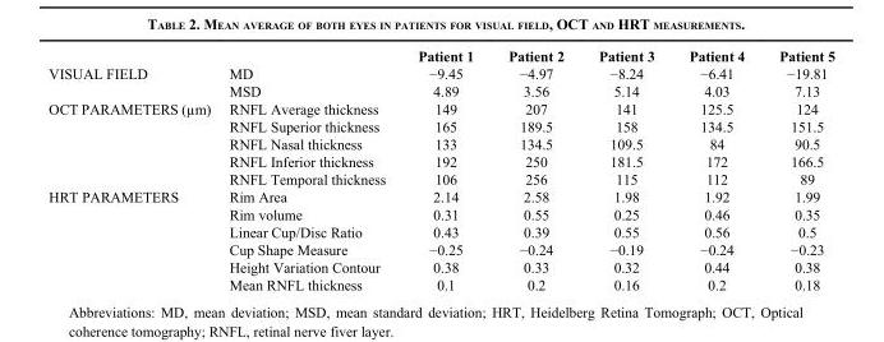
<table><thead><tr><td></td><td></td><td>Patient 1</td><td>Patient 2</td><td>Patient 3</td><td>Patient 4</td><td>Patient 5</td></tr></thead><tbody><tr><td rowspan="2">VISUAL FIELD</td><td>MD</td><td>−9.45</td><td>−4.97</td><td>−8.24</td><td>−6.41</td><td>−19.81</td></tr><tr><td>MSD</td><td>4.89</td><td>3.56</td><td>5.14</td><td>4.03</td><td>7.13</td></tr><tr><td rowspan="5">OCT PARAMETERS (µm)</td><td>RNFL Average thickness</td><td>149</td><td>207</td><td>141</td><td>125.5</td><td>124</td></tr><tr><td>RNFL Superior thickness</td><td>165</td><td>189.5</td><td>158</td><td>134.5</td><td>151.5</td></tr><tr><td>RNFL Nasal thickness</td><td>133</td><td>134.5</td><td>109.5</td><td>84</td><td>90.5</td></tr><tr><td>RNFL Inferior thickness</td><td>192</td><td>250</td><td>181.5</td><td>172</td><td>166.5</td></tr><tr><td>RNFL Temporal thickness</td><td>106</td><td>256</td><td>115</td><td>112</td><td>89</td></tr><tr><td rowspan="6">HRT PARAMETERS</td><td>Rim Area</td><td>2.14</td><td>2.58</td><td>1.98</td><td>1.92</td><td>1.99</td></tr><tr><td>Rim volume</td><td>0.31</td><td>0.55</td><td>0.25</td><td>0.46</td><td>0.35</td></tr><tr><td>Linear Cup/Disc Ratio</td><td>0.43</td><td>0.39</td><td>0.55</td><td>0.56</td><td>0.5</td></tr><tr><td>Cup Shape Measure</td><td>−0.25</td><td>−0.24</td><td>−0.19</td><td>−0.24</td><td>−0.23</td></tr><tr><td>Height Variation Contour</td><td>0.38</td><td>0.33</td><td>0.32</td><td>0.44</td><td>0.38</td></tr><tr><td>Mean RNFL thickness</td><td>0.1</td><td>0.2</td><td>0.16</td><td>0.2</td><td>0.18</td></tr></tbody></table>